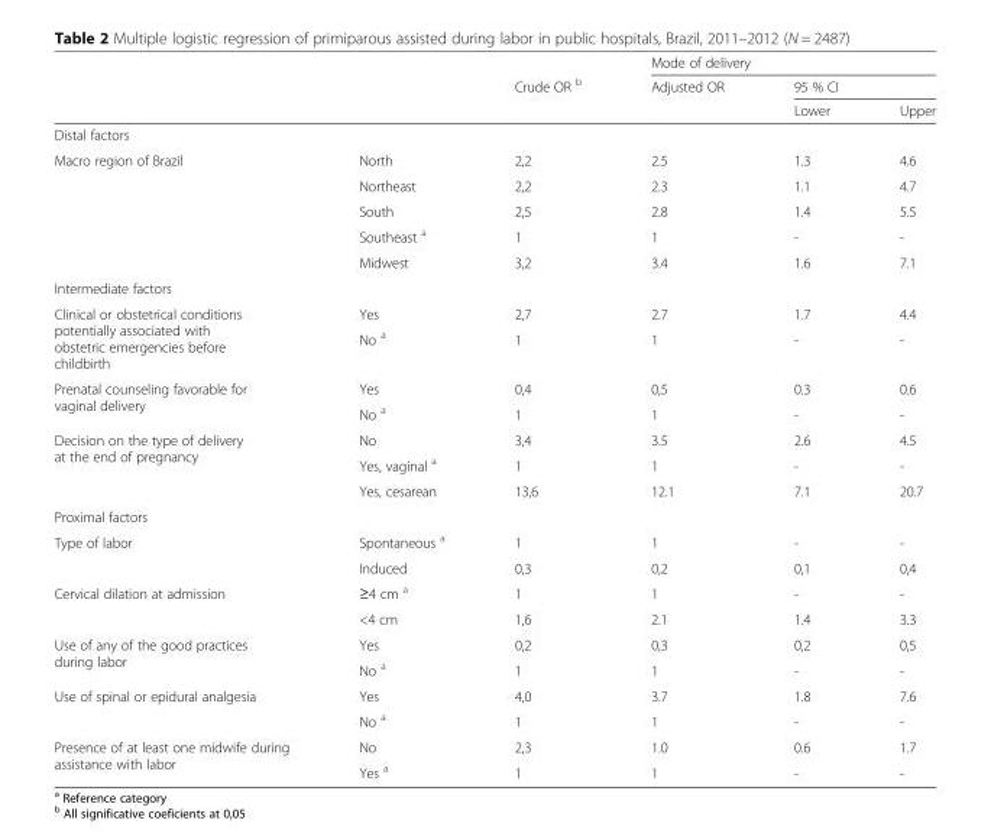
<table><thead><tr><td rowspan="3"></td><td rowspan="3"></td><td rowspan="3">Crude OR <sup>b</sup></td><td colspan="3">Mode of delivery</td></tr><tr><td rowspan="2">Adjusted OR</td><td colspan="2">95 % CI</td></tr><tr><td>Lower</td><td>Upper</td></tr></thead><tbody><tr><td colspan="6">Distal factors</td></tr><tr><td rowspan="5">Macro region of Brazil</td><td>North</td><td>2,2</td><td>2.5</td><td>1.3</td><td>4.6</td></tr><tr><td>Northeast</td><td>2,2</td><td>2.3</td><td>1.1</td><td>4.7</td></tr><tr><td>South</td><td>2,5</td><td>2.8</td><td>1.4</td><td>5.5</td></tr><tr><td>Southeast <sup>a</sup></td><td>1</td><td>1</td><td>-</td><td>-</td></tr><tr><td>Midwest</td><td>3,2</td><td>3.4</td><td>1.6</td><td>7.1</td></tr><tr><td colspan="6">Intermediate factors</td></tr><tr><td rowspan="2">Clinical or obstetrical conditions potentially associated with obstetric emergencies before childbirth</td><td>Yes</td><td>2,7</td><td>2.7</td><td>1.7</td><td>4.4</td></tr><tr><td>No <sup>a</sup></td><td>1</td><td>1</td><td>-</td><td>-</td></tr><tr><td rowspan="2">Prenatal counseling favorable for vaginal delivery</td><td>Yes</td><td>0,4</td><td>0,5</td><td>0.3</td><td>0.6</td></tr><tr><td>No <sup>a</sup></td><td>1</td><td>1</td><td>-</td><td>-</td></tr><tr><td rowspan="3">Decision on the type of delivery at the end of pregnancy</td><td>No</td><td>3,4</td><td>3.5</td><td>2.6</td><td>4.5</td></tr><tr><td>Yes, vaginal <sup>a</sup></td><td>1</td><td>1</td><td>-</td><td>-</td></tr><tr><td>Yes, cesarean</td><td>13,6</td><td>12.1</td><td>7.1</td><td>20.7</td></tr><tr><td colspan="6">Proximal factors</td></tr><tr><td rowspan="2">Type of labor</td><td>Spontaneous <sup>a</sup></td><td>1</td><td>1</td><td>-</td><td>-</td></tr><tr><td>Induced</td><td>0,3</td><td>0,2</td><td>0,1</td><td>0,4</td></tr><tr><td rowspan="2">Cervical dilation at admission</td><td>≥4 cm <sup>a</sup></td><td>1</td><td>1</td><td>-</td><td>-</td></tr><tr><td>&lt;4 cm</td><td>1,6</td><td>2.1</td><td>1.4</td><td>3.3</td></tr><tr><td rowspan="2">Use of any of the good practices during labor</td><td>Yes</td><td>0,2</td><td>0,3</td><td>0,2</td><td>0,5</td></tr><tr><td>No <sup>a</sup></td><td>1</td><td>1</td><td>-</td><td>-</td></tr><tr><td rowspan="2">Use of spinal or epidural analgesia</td><td>Yes</td><td>4,0</td><td>3.7</td><td>1.8</td><td>7.6</td></tr><tr><td>No <sup>a</sup></td><td>1</td><td>1</td><td>-</td><td>-</td></tr><tr><td rowspan="2">Presence of at least one midwife during assistance with labor</td><td>No</td><td>2,3</td><td>1.0</td><td>0.6</td><td>1.7</td></tr><tr><td>Yes <sup>a</sup></td><td>1</td><td>1</td><td>-</td><td>-</td></tr></tbody></table>